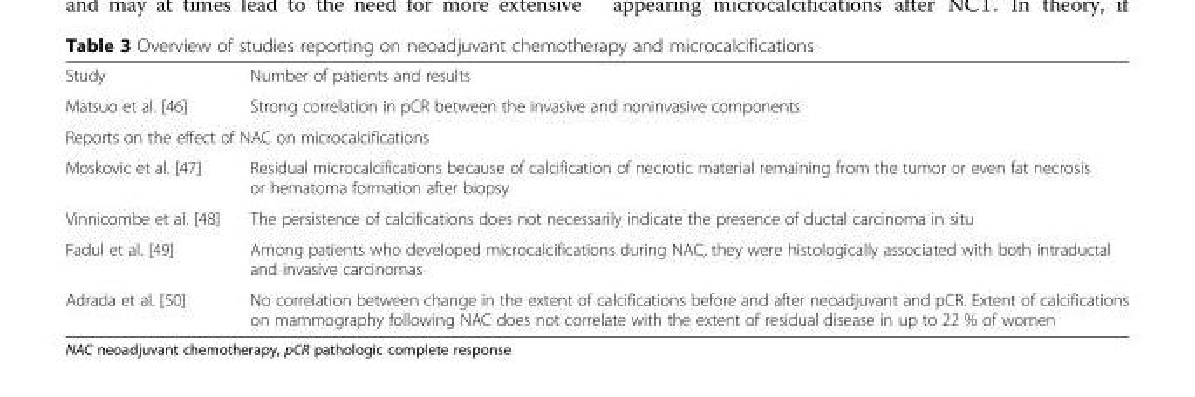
<table><tbody><tr><td>Study</td><td>Number of patients and results</td></tr><tr><td>Matsuo et al. [46]</td><td>Strong correlation in pCR between the invasive and noninvasive components</td></tr><tr><td colspan="2">Reports on the effect of NAC on microcalcifications</td></tr><tr><td>Moskovic et al. [47]</td><td>Residual microcalcifications because of calcification of necrotic material remaining from the tumor or even fat necrosis or hematoma formation after biopsy</td></tr><tr><td>Vinnicombe et al. [48]</td><td>The persistence of calcifications does not necessarily indicate the presence of ductal carcinoma in situ</td></tr><tr><td>Fadul et al. [49]</td><td>Among patients who developed microcalcifications during NAC, they were histologically associated with both intraductal and invasive carcinomas</td></tr><tr><td>Adrada et al. [50]</td><td>No correlation between change in the extent of calcifications before and after neoadjuvant and pCR. Extent of calcifications on mammography following NAC does not correlate with the extent of residual disease in up to 22 % of women</td></tr></tbody></table>